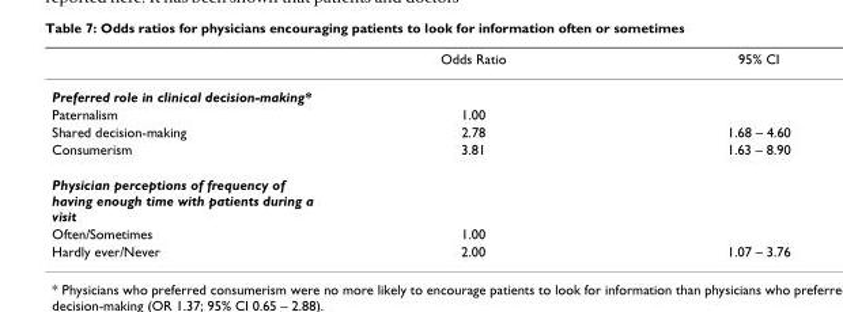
<table><thead><tr><td></td><td>Odds Ratio</td><td>95% CI</td></tr></thead><tbody><tr><td colspan="3">Preferred role in clinical decision-making*</td></tr><tr><td>Paternalism</td><td>1.00</td><td></td></tr><tr><td>Shared decision-making</td><td>2.78</td><td>1.68 – 4.60</td></tr><tr><td>Consumerism</td><td>3.81</td><td>1.63 – 8.90</td></tr><tr><td colspan="3">Physician perceptions of frequency of having enough time with patients during a visit</td></tr><tr><td>Often/Sometimes</td><td>1.00</td><td></td></tr><tr><td>Hardly ever/Never</td><td>2.00</td><td>1.07 – 3.76</td></tr></tbody></table>